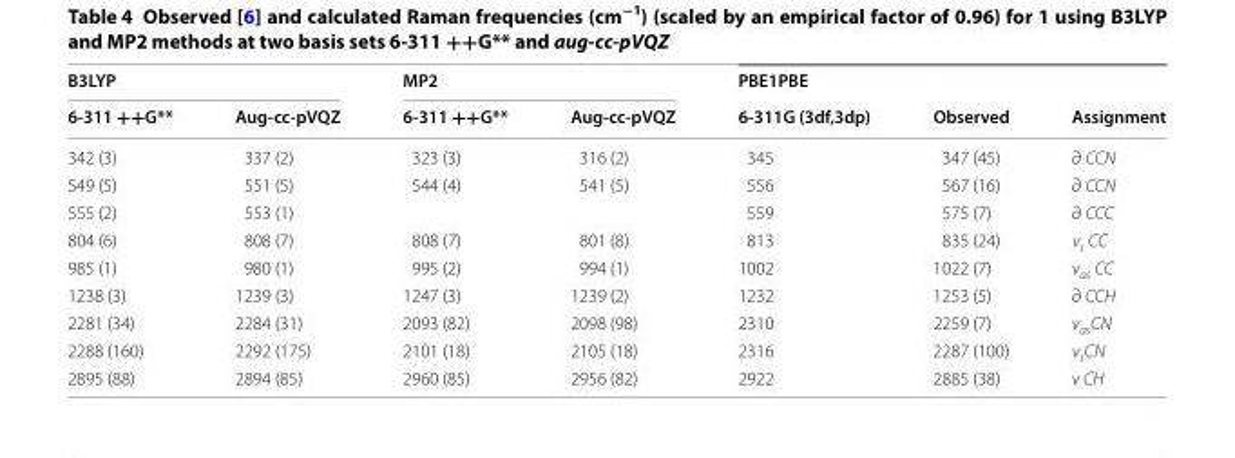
<table><thead><tr><td colspan="2">B3LYP</td><td colspan="2">MP2</td><td rowspan="2">PBE1PBE 6‑311G (3df,3dp)</td><td rowspan="2">Observed</td><td rowspan="2">Assignment</td></tr><tr><td>6‑311 ++G**</td><td>Aug‑cc‑pVQZ</td><td>6‑311 ++G**</td><td>Aug‑cc‑pVQZ</td></tr></thead><tbody><tr><td>342 (3)</td><td>337 (2)</td><td>323 (3)</td><td>316 (2)</td><td>345</td><td>347 (45)</td><td>∂ CCN</td></tr><tr><td>549 (5)</td><td>551 (5)</td><td>544 (4)</td><td>541 (5)</td><td>556</td><td>567 (16)</td><td>∂ CCN</td></tr><tr><td>555 (2)</td><td>553 (1)</td><td></td><td></td><td>559</td><td>575 (7)</td><td>∂ CCC</td></tr><tr><td>804 (6)</td><td>808 (7)</td><td>808 (7)</td><td>801 (8)</td><td>813</td><td>835 (24)</td><td>v<sub>s</sub> CC</td></tr><tr><td>985 (1)</td><td>980 (1)</td><td>995 (2)</td><td>994 (1)</td><td>1002</td><td>1022 (7)</td><td>v<sub>as</sub> CC</td></tr><tr><td>1238 (3)</td><td>1239 (3)</td><td>1247 (3)</td><td>1239 (2)</td><td>1232</td><td>1253 (5)</td><td>∂ CCH</td></tr><tr><td>2281 (34)</td><td>2284 (31)</td><td>2093 (82)</td><td>2098 (98)</td><td>2310</td><td>2259 (7)</td><td>v<sub>as</sub>CN</td></tr><tr><td>2288 (160)</td><td>2292 (175)</td><td>2101 (18)</td><td>2105 (18)</td><td>2316</td><td>2287 (100)</td><td>v<sub>s</sub>CN</td></tr><tr><td>2895 (88)</td><td>2894 (85)</td><td>2960 (85)</td><td>2956 (82)</td><td>2922</td><td>2885 (38)</td><td>v CH</td></tr></tbody></table>